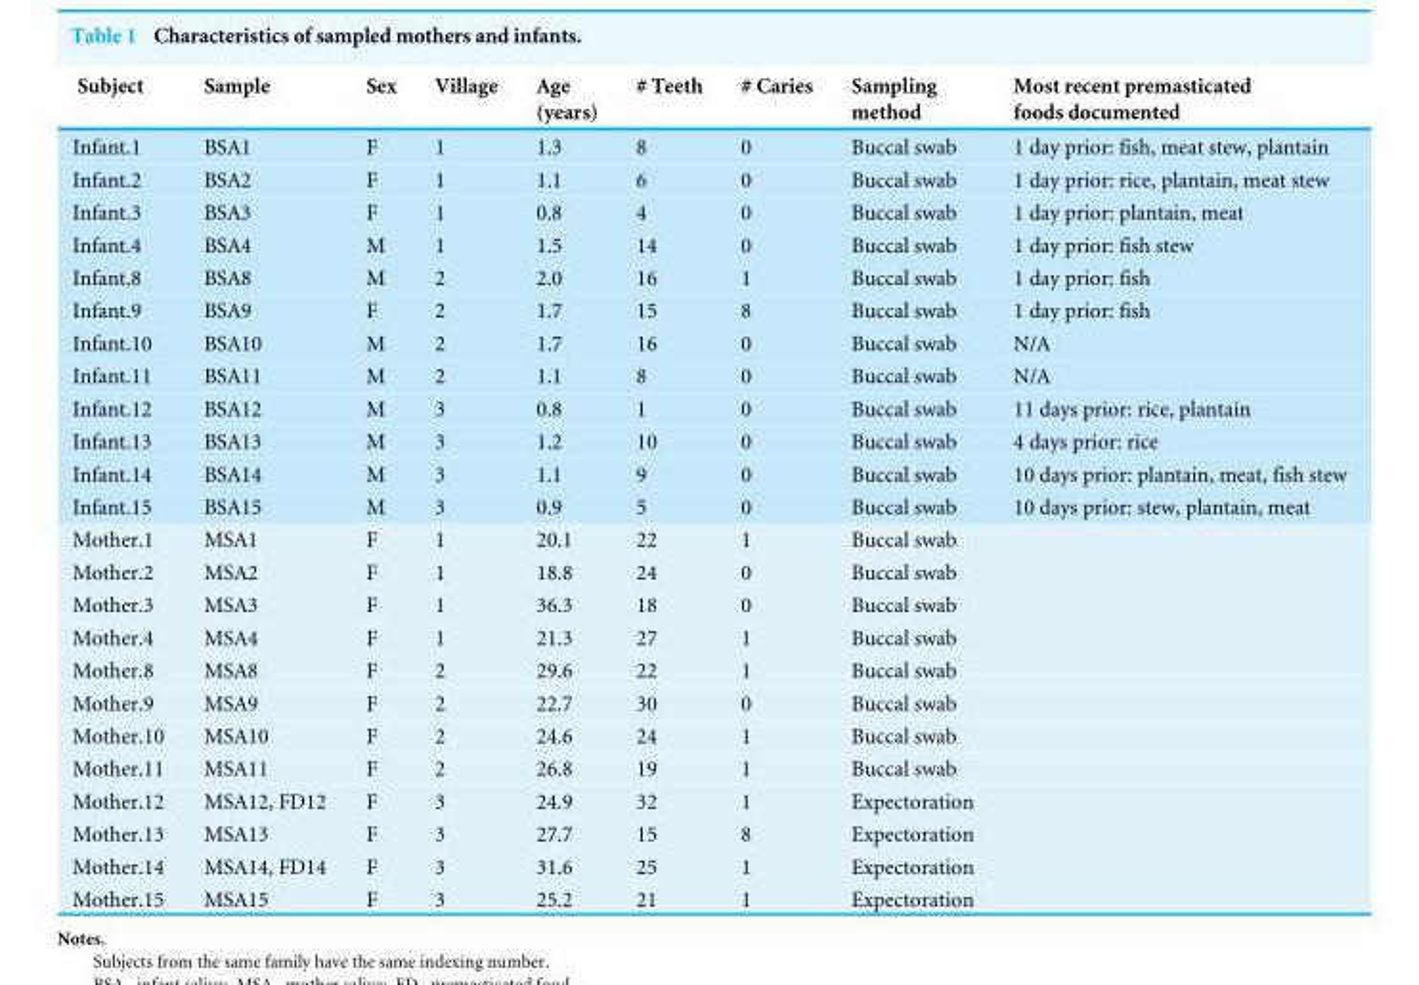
<table><thead><tr><td>Subject</td><td>Sample</td><td>Sex</td><td>Village</td><td>Age (years)</td><td># Teeth</td><td># Caries</td><td>Sampling method</td><td>Most recent premasticated foods documented</td></tr></thead><tbody><tr><td>Infant.1</td><td>BSA1</td><td>F</td><td>1</td><td>1.3</td><td>8</td><td>0</td><td>Buccal swab</td><td>1 day prior: fish, meat stew, plantain</td></tr><tr><td>Infant.2</td><td>BSA2</td><td>F</td><td>1</td><td>1.1</td><td>6</td><td>0</td><td>Buccal swab</td><td>1 day prior: rice, plantain, meat stew</td></tr><tr><td>Infant.3</td><td>BSA3</td><td>F</td><td>1</td><td>0.8</td><td>4</td><td>0</td><td>Buccal swab</td><td>1 day prior: plantain, meat</td></tr><tr><td>Infant.4</td><td>BSA4</td><td>M</td><td>1</td><td>1.5</td><td>14</td><td>0</td><td>Buccal swab</td><td>1 day prior: fish stew</td></tr><tr><td>Infant.8</td><td>BSA8</td><td>M</td><td>2</td><td>2.0</td><td>16</td><td>1</td><td>Buccal swab</td><td>1 day prior: fish</td></tr><tr><td>Infant.9</td><td>BSA9</td><td>F</td><td>2</td><td>1.7</td><td>15</td><td>8</td><td>Buccal swab</td><td>1 day prior: fish</td></tr><tr><td>Infant.10</td><td>BSA10</td><td>M</td><td>2</td><td>1.7</td><td>16</td><td>0</td><td>Buccal swab</td><td>N/A</td></tr><tr><td>Infant.11</td><td>BSA11</td><td>M</td><td>2</td><td>1.1</td><td>8</td><td>0</td><td>Buccal swab</td><td>N/A</td></tr><tr><td>Infant.12</td><td>BSA12</td><td>M</td><td>3</td><td>0.8</td><td>1</td><td>0</td><td>Buccal swab</td><td>11 days prior: rice, plantain</td></tr><tr><td>Infant.13</td><td>BSA13</td><td>M</td><td>3</td><td>1.2</td><td>10</td><td>0</td><td>Buccal swab</td><td>4 days prior: rice</td></tr><tr><td>Infant.14</td><td>BSA14</td><td>M</td><td>3</td><td>1.1</td><td>9</td><td>0</td><td>Buccal swab</td><td>10 days prior: plantain, meat, fish stew</td></tr><tr><td>Infant.15</td><td>BSA15</td><td>M</td><td>3</td><td>0.9</td><td>5</td><td>0</td><td>Buccal swab</td><td>10 days prior: stew, plantain, meat</td></tr><tr><td>Mother.1</td><td>MSA1</td><td>F</td><td>1</td><td>20.1</td><td>22</td><td>1</td><td>Buccal swab</td><td></td></tr><tr><td>Mother.2</td><td>MSA2</td><td>F</td><td>1</td><td>18.8</td><td>24</td><td>0</td><td>Buccal swab</td><td></td></tr><tr><td>Mother.3</td><td>MSA3</td><td>F</td><td>1</td><td>36.3</td><td>18</td><td>0</td><td>Buccal swab</td><td></td></tr><tr><td>Mother.4</td><td>MSA4</td><td>F</td><td>1</td><td>21.3</td><td>27</td><td>1</td><td>Buccal swab</td><td></td></tr><tr><td>Mother.8</td><td>MSA8</td><td>F</td><td>2</td><td>29.6</td><td>22</td><td>1</td><td>Buccal swab</td><td></td></tr><tr><td>Mother.9</td><td>MSA9</td><td>F</td><td>2</td><td>22.7</td><td>30</td><td>0</td><td>Buccal swab</td><td></td></tr><tr><td>Mother.10</td><td>MSA10</td><td>F</td><td>2</td><td>24.6</td><td>24</td><td>1</td><td>Buccal swab</td><td></td></tr><tr><td>Mother.11</td><td>MSA11</td><td>F</td><td>2</td><td>26.8</td><td>19</td><td>1</td><td>Buccal swab</td><td></td></tr><tr><td>Mother.12</td><td>MSA12, FD12</td><td>F</td><td>3</td><td>24.9</td><td>32</td><td>1</td><td>Expectoration</td><td></td></tr><tr><td>Mother.13</td><td>MSA13</td><td>F</td><td>3</td><td>27.7</td><td>15</td><td>8</td><td>Expectoration</td><td></td></tr><tr><td>Mother.14</td><td>MSA14, FD14</td><td>F</td><td>3</td><td>31.6</td><td>25</td><td>1</td><td>Expectoration</td><td></td></tr><tr><td>Mother.15</td><td>MSA15</td><td>F</td><td>3</td><td>25.2</td><td>21</td><td>1</td><td>Expectoration</td><td></td></tr></tbody></table>